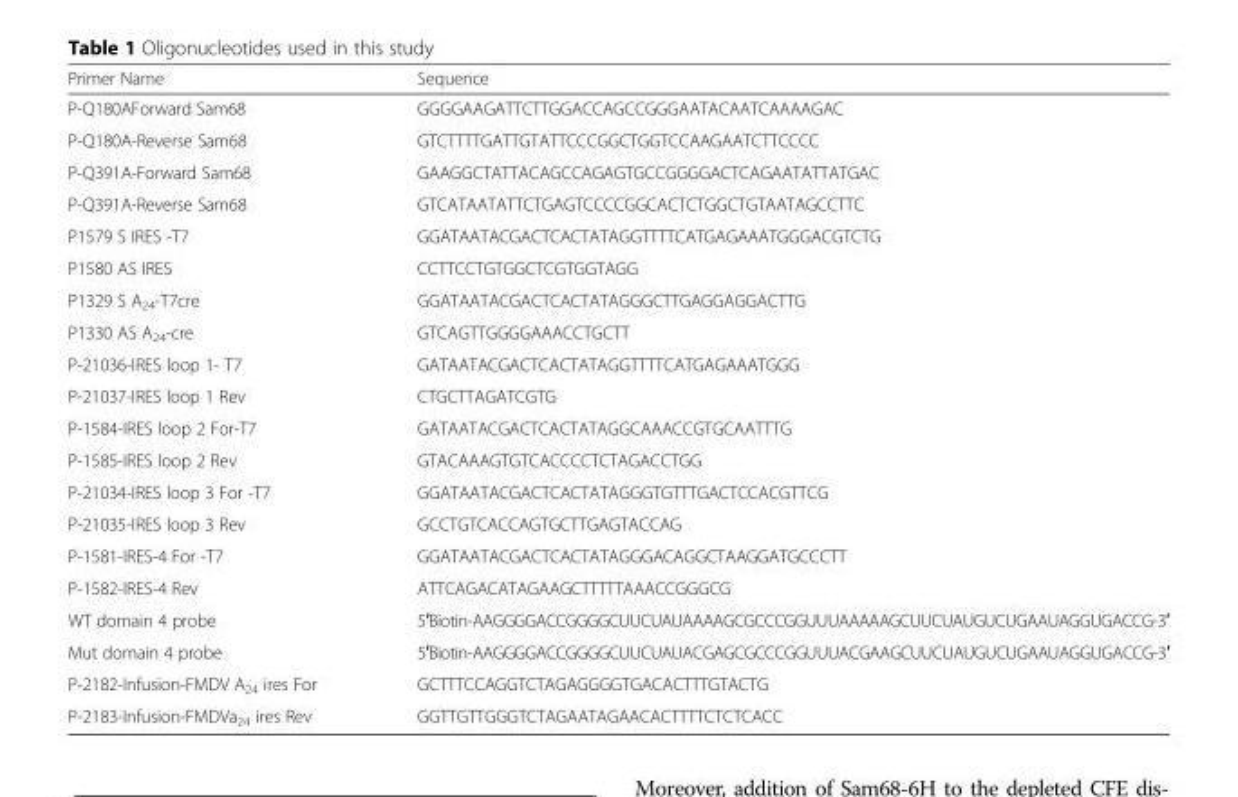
<table><thead><tr><td>Primer Name</td><td>Sequence</td></tr></thead><tbody><tr><td>P-Q180AForward Sam68</td><td>GGGGAAGATTCTTGGACCAGCCGGGAATACAATCAAAAGAC</td></tr><tr><td>P-Q180A-Reverse Sam68</td><td>GTCTTTTGATTGTATTCCCGGCTGGTCCAAGAATCTTCCCC</td></tr><tr><td>P-Q391A-Forward Sam68</td><td>GAAGGCTATTACAGCCAGAGTGCCGGGGACTCAGAATATTATGAC</td></tr><tr><td>P-Q391A-Reverse Sam68</td><td>GTCATAATATTCTGAGTCCCCGGCACTCTGGCTGTAATAGCCTTC</td></tr><tr><td>P1579 S IRES -T7</td><td>GGATAATACGACTCACTATAGGTTTTCATGAGAAATGGGACGTCTG</td></tr><tr><td>P1580 AS IRES</td><td>CCTTCCTGTGGCTCGTGGTAGG</td></tr><tr><td>P1329 S A<sub>24</sub>-T7cre</td><td>GGATAATACGACTCACTATAGGGCTTGAGGAGGACTTG</td></tr><tr><td>P1330 AS A<sub>24</sub>-cre</td><td>GTCAGTTGGGGAAACCTGCTT</td></tr><tr><td>P-21036-IRES loop 1- T7</td><td>GATAATACGACTCACTATAGGTTTTCATGAGAAATGGG</td></tr><tr><td>P-21037-IRES loop 1 Rev</td><td>CTGCTTAGATCGTG</td></tr><tr><td>P-1584-IRES loop 2 For-T7</td><td>GATAATACGACTCACTATAGGCAAACCGTGCAATTTG</td></tr><tr><td>P-1585-IRES loop 2 Rev</td><td>GTACAAAGTGTCACCCCTCTAGACCTGG</td></tr><tr><td>P-21034-IRES loop 3 For -T7</td><td>GGATAATACGACTCACTATAGGGTGTTTGACTCCACGTTCG</td></tr><tr><td>P-21035-IRES loop 3 Rev</td><td>GCCTGTCACCAGTGCTTGAGTACCAG</td></tr><tr><td>P-1581-IRES-4 For -T7</td><td>GGATAATACGACTCACTATAGGGACAGGCTAAGGATGCCCTT</td></tr><tr><td>P-1582-IRES-4 Rev</td><td>ATTCAGACATAGAAGCTTTTTAAACCGGGCG</td></tr><tr><td>WT domain 4 probe</td><td>5′Biotin-AAGGGGACCGGGGCUUCUAUAAAAGCGCCCGGUUUAAAAAGCUUCUAUGUCUGAAUAGGUGACCG-3′</td></tr><tr><td>Mut domain 4 probe</td><td>5′Biotin-AAGGGGACCGGGGCUUCUAUACGAGCGCCCGGUUUACGAAGCUUCUAUGUCUGAAUAGGUGACCG-3′</td></tr><tr><td>P-2182-Infusion-FMDV A<sub>24</sub> ires For</td><td>GCTTTCCAGGTCTAGAGGGGTGACACTTTGTACTG</td></tr><tr><td>P-2183-Infusion-FMDVa<sub>24</sub> ires Rev</td><td>GGTTGTTGGGTCTAGAATAGAACACTTTTCTCTCACC</td></tr></tbody></table>